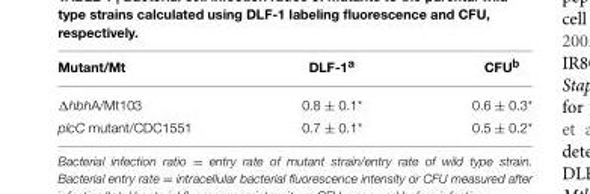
<table><thead><tr><td>Mutant/Mt</td><td>DLF-1<sup>a</sup></td><td>CFU<sup>b</sup></td></tr></thead><tbody><tr><td>ΔhbhA/Mt103</td><td>0.8 ± 0.1*</td><td>0.6 ± 0.3*</td></tr><tr><td>plcC mutant/CDC1551</td><td>0.7 ± 0.1*</td><td>0.5 ± 0.2*</td></tr></tbody></table>